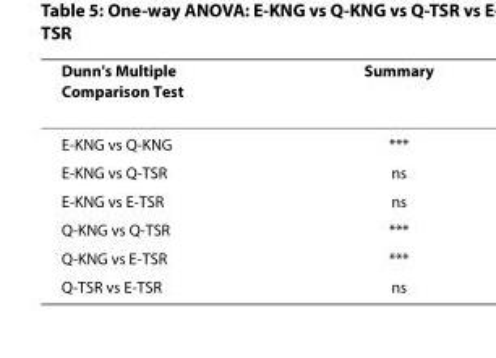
<table><thead><tr><td>Dunn&#x27;s Multiple Comparison Test</td><td>Summary</td></tr></thead><tbody><tr><td>E-KNG vs Q-KNG</td><td>***</td></tr><tr><td>E-KNG vs Q-TSR</td><td>ns</td></tr><tr><td>E-KNG vs E-TSR</td><td>ns</td></tr><tr><td>Q-KNG vs Q-TSR</td><td>***</td></tr><tr><td>Q-KNG vs E-TSR</td><td>***</td></tr><tr><td>Q-TSR vs E-TSR</td><td>ns</td></tr></tbody></table>